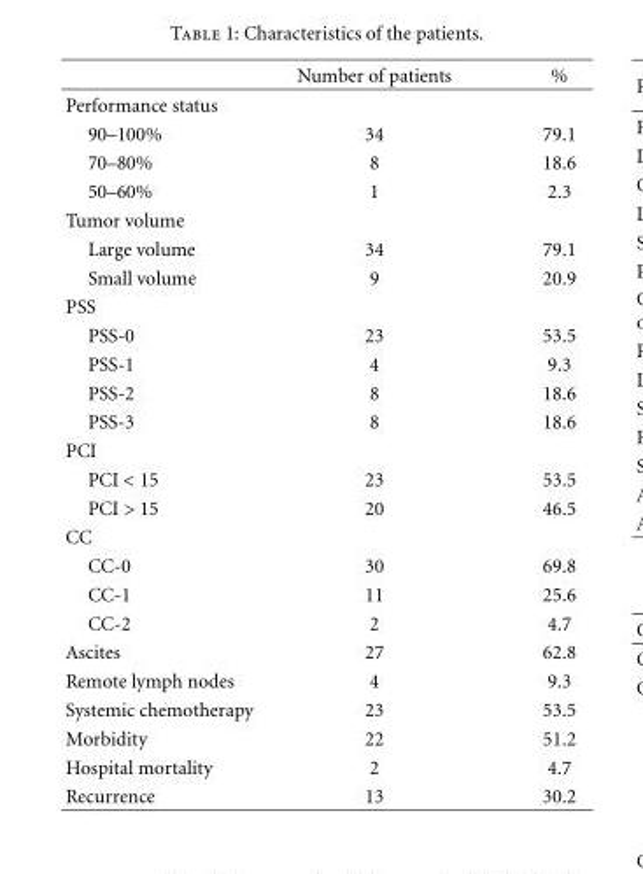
<table><thead><tr><td></td><td>Number of patients</td><td>%</td></tr></thead><tbody><tr><td colspan="3">Performance status</td></tr><tr><td>90–100%</td><td>34</td><td>79.1</td></tr><tr><td>70–80%</td><td>8</td><td>18.6</td></tr><tr><td>50–60%</td><td>1</td><td>2.3</td></tr><tr><td colspan="3">Tumor volume</td></tr><tr><td>Large volume</td><td>34</td><td>79.1</td></tr><tr><td>Small volume</td><td>9</td><td>20.9</td></tr><tr><td colspan="3">PSS</td></tr><tr><td>PSS-0</td><td>23</td><td>53.5</td></tr><tr><td>PSS-1</td><td>4</td><td>9.3</td></tr><tr><td>PSS-2</td><td>8</td><td>18.6</td></tr><tr><td>PSS-3</td><td>8</td><td>18.6</td></tr><tr><td colspan="3">PCI</td></tr><tr><td>PCI &lt; 15</td><td>23</td><td>53.5</td></tr><tr><td>PCI &gt; 15</td><td>20</td><td>46.5</td></tr><tr><td colspan="3">CC</td></tr><tr><td>CC-0</td><td>30</td><td>69.8</td></tr><tr><td>CC-1</td><td>11</td><td>25.6</td></tr><tr><td>CC-2</td><td>2</td><td>4.7</td></tr><tr><td>Ascites</td><td>27</td><td>62.8</td></tr><tr><td>Remote lymph nodes</td><td>4</td><td>9.3</td></tr><tr><td>Systemic chemotherapy</td><td>23</td><td>53.5</td></tr><tr><td>Morbidity</td><td>22</td><td>51.2</td></tr><tr><td>Hospital mortality</td><td>2</td><td>4.7</td></tr><tr><td>Recurrence</td><td>13</td><td>30.2</td></tr></tbody></table>